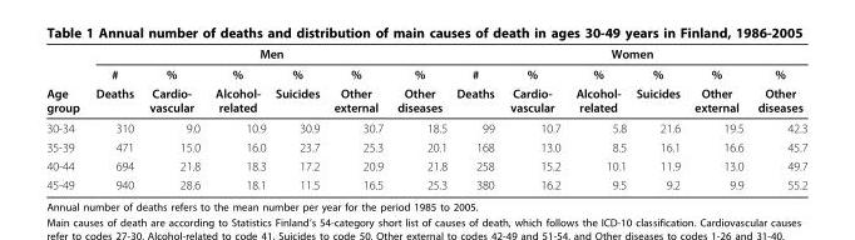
<table><thead><tr><td rowspan="2"></td><td colspan="6">Men</td><td colspan="6">Women</td></tr><tr><td>#</td><td>%</td><td>%</td><td>%</td><td>%</td><td>%</td><td>#</td><td>%</td><td>%</td><td>%</td><td>%</td><td>%</td></tr></thead><tbody><tr><td>Age group</td><td>Deaths</td><td>Cardio- vascular</td><td>Alcohol- related</td><td>Suicides</td><td>Other external</td><td>Other diseases</td><td>Deaths</td><td>Cardio- vascular</td><td>Alcohol- related</td><td>Suicides</td><td>Other external</td><td>Other diseases</td></tr><tr><td>30-34</td><td>310</td><td>9.0</td><td>10.9</td><td>30.9</td><td>30.7</td><td>18.5</td><td>99</td><td>10.7</td><td>5.8</td><td>21.6</td><td>19.5</td><td>42.3</td></tr><tr><td>35-39</td><td>471</td><td>15.0</td><td>16.0</td><td>23.7</td><td>25.3</td><td>20.1</td><td>168</td><td>13.0</td><td>8.5</td><td>16.1</td><td>16.6</td><td>45.7</td></tr><tr><td>40-44</td><td>694</td><td>21.8</td><td>18.3</td><td>17.2</td><td>20.9</td><td>21.8</td><td>258</td><td>15.2</td><td>10.1</td><td>11.9</td><td>13.0</td><td>49.7</td></tr><tr><td>45-49</td><td>940</td><td>28.6</td><td>18.1</td><td>11.5</td><td>16.5</td><td>25.3</td><td>380</td><td>16.2</td><td>9.5</td><td>9.2</td><td>9.9</td><td>55.2</td></tr></tbody></table>